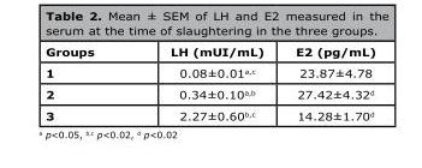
<table><thead><tr><td>Groups</td><td>LH (mUI/mL)</td><td>E2 (pg/mL)</td></tr></thead><tbody><tr><td>1</td><td>0.08±0.01<sup>a,c</sup></td><td>23.87±4.78</td></tr><tr><td>2</td><td>0.34±0.10<sup>a,b</sup></td><td>27.42±4.32<sup>d</sup></td></tr><tr><td>3</td><td>2.27±0.60<sup>b,c</sup></td><td>14.28±1.70<sup>d</sup></td></tr></tbody></table>